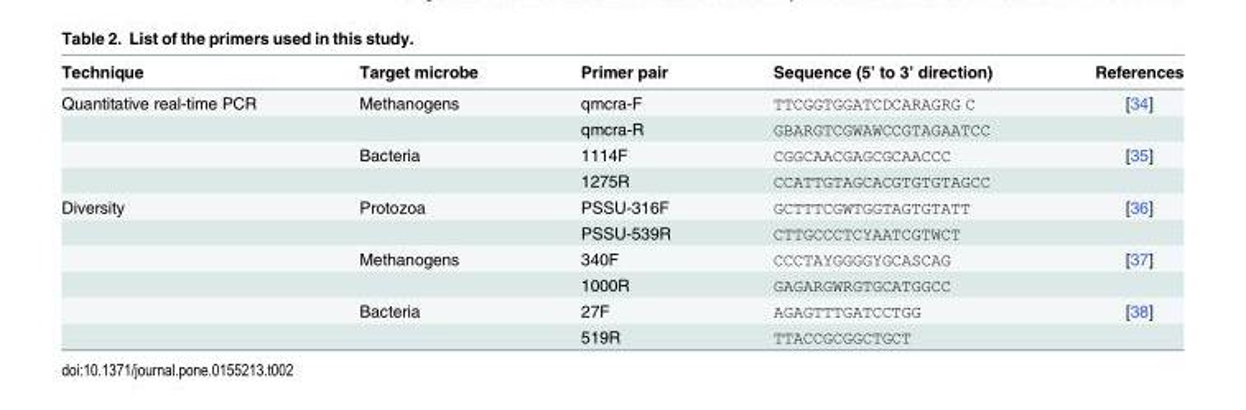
<table><thead><tr><td>Technique</td><td>Target microbe</td><td>Primer pair</td><td>Sequence (5’ to 3’ direction)</td><td>References</td></tr></thead><tbody><tr><td rowspan="4">Quantitative real-time PCR</td><td>Methanogens</td><td>qmcra-F</td><td>TTCGGTGGATCDCARAGRG C</td><td>[34]</td></tr><tr><td></td><td>qmcra-R</td><td>GBARGTCGWAWCCGTAGAATCC</td><td></td></tr><tr><td>Bacteria</td><td>1114F</td><td>CGGCAACGAGCGCAACCC</td><td>[35]</td></tr><tr><td></td><td>1275R</td><td>CCATTGTAGCACGTGTGTAGCC</td><td></td></tr><tr><td rowspan="6">Diversity</td><td>Protozoa</td><td>PSSU-316F</td><td>GCTTTCGWTGGTAGTGTATT</td><td>[36]</td></tr><tr><td></td><td>PSSU-539R</td><td>CTTGCCCTCYAATCGTWCT</td><td></td></tr><tr><td>Methanogens</td><td>340F</td><td>CCCTAYGGGGYGCASCAG</td><td>[37]</td></tr><tr><td></td><td>1000R</td><td>GAGARGWRGTGCATGGCC</td><td></td></tr><tr><td>Bacteria</td><td>27F</td><td>AGAGTTTGATCCTGG</td><td>[38]</td></tr><tr><td></td><td>519R</td><td>TTACCGCGGCTGCT</td><td></td></tr></tbody></table>